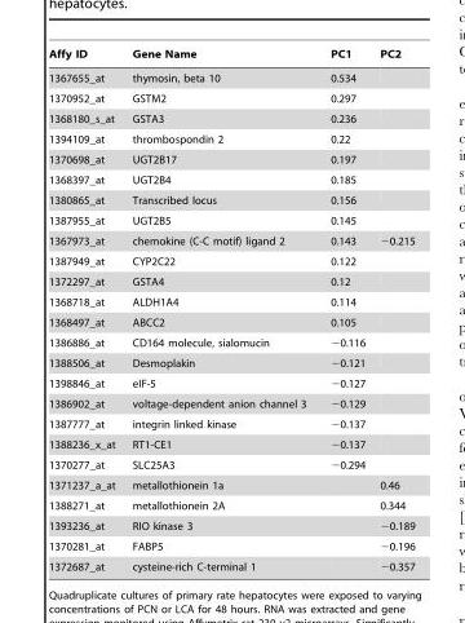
<table><thead><tr><td>Affy ID</td><td>Gene Name</td><td>PC1</td><td>PC2</td></tr></thead><tbody><tr><td>1367655_at</td><td>thymosin, beta 10</td><td>0.534</td><td></td></tr><tr><td>1370952_at</td><td>GSTM2</td><td>0.297</td><td></td></tr><tr><td>1368180_s_at</td><td>GSTA3</td><td>0.236</td><td></td></tr><tr><td>1394109_at</td><td>thrombospondin 2</td><td>0.22</td><td></td></tr><tr><td>1370698_at</td><td>UGT2B17</td><td>0.197</td><td></td></tr><tr><td>1368397_at</td><td>UGT2B4</td><td>0.185</td><td></td></tr><tr><td>1380865_at</td><td>Transcribed locus</td><td>0.156</td><td></td></tr><tr><td>1387955_at</td><td>UGT2B5</td><td>0.145</td><td></td></tr><tr><td>1367973_at</td><td>chemokine (C-C motif) ligand 2</td><td>0.143</td><td>−0.215</td></tr><tr><td>1387949_at</td><td>CYP2C22</td><td>0.122</td><td></td></tr><tr><td>1372297_at</td><td>GSTA4</td><td>0.12</td><td></td></tr><tr><td>1368718_at</td><td>ALDH1A4</td><td>0.114</td><td></td></tr><tr><td>1368497_at</td><td>ABCC2</td><td>0.105</td><td></td></tr><tr><td>1386886_at</td><td>CD164 molecule, sialomucin</td><td>−0.116</td><td></td></tr><tr><td>1388506_at</td><td>Desmoplakin</td><td>−0.121</td><td></td></tr><tr><td>1398846_at</td><td>eIF-5</td><td>−0.127</td><td></td></tr><tr><td>1386902_at</td><td>voltage-dependent anion channel 3</td><td>−0.129</td><td></td></tr><tr><td>1387777_at</td><td>integrin linked kinase</td><td>−0.137</td><td></td></tr><tr><td>1388236_x_at</td><td>RT1-CE1</td><td>−0.137</td><td></td></tr><tr><td>1370277_at</td><td>SLC25A3</td><td>−0.294</td><td></td></tr><tr><td>1371237_a_at</td><td>metallothionein 1a</td><td></td><td>0.46</td></tr><tr><td>1388271_at</td><td>metallothionein 2A</td><td></td><td>0.344</td></tr><tr><td>1393236_at</td><td>RIO kinase 3</td><td></td><td>−0.189</td></tr><tr><td>1370281_at</td><td>FABP5</td><td></td><td>−0.196</td></tr><tr><td>1372687_at</td><td>cysteine-rich C-terminal 1</td><td></td><td>−0.357</td></tr></tbody></table>